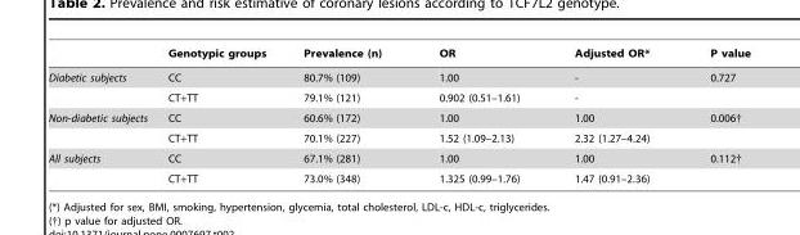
<table><thead><tr><td></td><td>Genotypic groups</td><td>Prevalence (n)</td><td>OR</td><td>Adjusted OR*</td><td>P value</td></tr></thead><tbody><tr><td rowspan="2">Diabetic subjects</td><td>CC</td><td>80.7% (109)</td><td>1.00</td><td>-</td><td>0.727</td></tr><tr><td>CT+TT</td><td>79.1% (121)</td><td>0.902 (0.51–1.61)</td><td>-</td><td></td></tr><tr><td rowspan="2">Non-diabetic subjects</td><td>CC</td><td>60.6% (172)</td><td>1.00</td><td>1.00</td><td>0.006†</td></tr><tr><td>CT+TT</td><td>70.1% (227)</td><td>1.52 (1.09–2.13)</td><td>2.32 (1.27–4.24)</td><td></td></tr><tr><td rowspan="2">All subjects</td><td>CC</td><td>67.1% (281)</td><td>1.00</td><td>1.00</td><td>0.112†</td></tr><tr><td>CT+TT</td><td>73.0% (348)</td><td>1.325 (0.99–1.76)</td><td>1.47 (0.91–2.36)</td><td></td></tr></tbody></table>